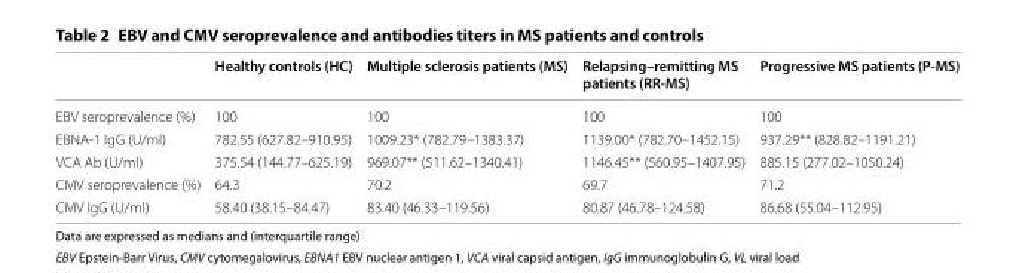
<table><thead><tr><td></td><td>Healthy controls (HC)</td><td>Multiple sclerosis patients (MS)</td><td>Relapsing–remitting MS patients (RR-MS)</td><td>Progressive MS patients (P-MS)</td></tr></thead><tbody><tr><td>EBV seroprevalence (%)</td><td>100</td><td>100</td><td>100</td><td>100</td></tr><tr><td>EBNA-1 IgG (U/ml)</td><td>782.55 (627.82–910.95)</td><td>1009.23* (782.79–1383.37)</td><td>1139.00* (782.70–1452.15)</td><td>937.29** (828.82–1191.21)</td></tr><tr><td>VCA Ab (U/ml)</td><td>375.54 (144.77–625.19)</td><td>969.07** (511.62–1340.41)</td><td>1146.45** (560.95–1407.95)</td><td>885.15 (277.02–1050.24)</td></tr><tr><td>CMV seroprevalence (%)</td><td>64.3</td><td>70.2</td><td>69.7</td><td>71.2</td></tr><tr><td>CMV IgG (U/ml)</td><td>58.40 (38.15–84.47)</td><td>83.40 (46.33–119.56)</td><td>80.87 (46.78–124.58)</td><td>86.68 (55.04–112.95)</td></tr></tbody></table>